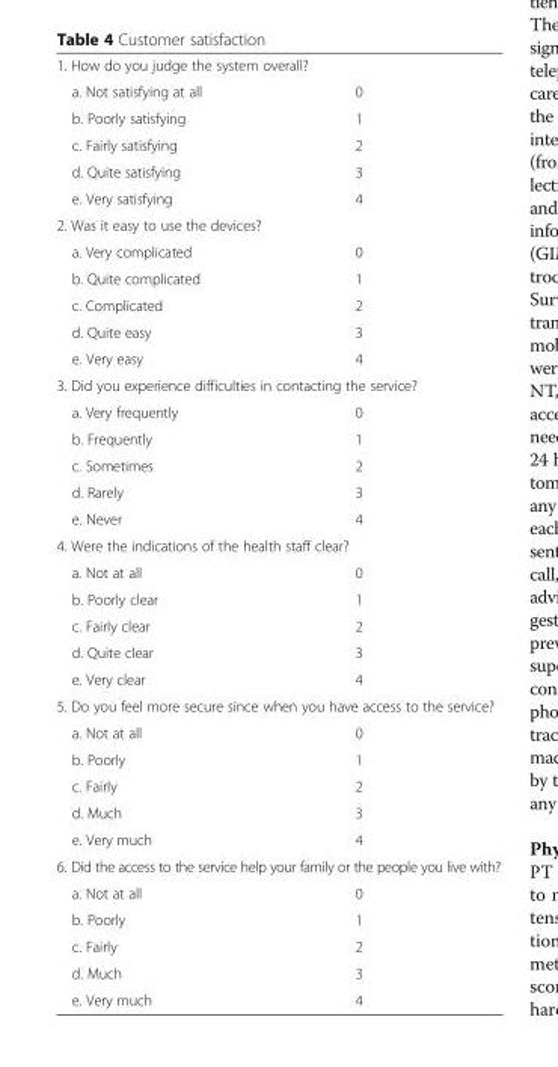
<table><tbody><tr><td colspan="2">1. How do you judge the system overall?</td></tr><tr><td>a. Not satisfying at all</td><td>0</td></tr><tr><td>b. Poorly satisfying</td><td>1</td></tr><tr><td>c. Fairly satisfying</td><td>2</td></tr><tr><td>d. Quite satisfying</td><td>3</td></tr><tr><td>e. Very satisfying</td><td>4</td></tr><tr><td colspan="2">2. Was it easy to use the devices?</td></tr><tr><td>a. Very complicated</td><td>0</td></tr><tr><td>b. Quite complicated</td><td>1</td></tr><tr><td>c. Complicated</td><td>2</td></tr><tr><td>d. Quite easy</td><td>3</td></tr><tr><td>e. Very easy</td><td>4</td></tr><tr><td colspan="2">3. Did you experience difficulties in contacting the service?</td></tr><tr><td>a. Very frequently</td><td>0</td></tr><tr><td>b. Frequently</td><td>1</td></tr><tr><td>c. Sometimes</td><td>2</td></tr><tr><td>d. Rarely</td><td>3</td></tr><tr><td>e. Never</td><td>4</td></tr><tr><td colspan="2">4. Were the indications of the health staff clear?</td></tr><tr><td>a. Not at all</td><td>0</td></tr><tr><td>b. Poorly clear</td><td>1</td></tr><tr><td>c. Fairly clear</td><td>2</td></tr><tr><td>d. Quite clear</td><td>3</td></tr><tr><td>e. Very clear</td><td>4</td></tr><tr><td colspan="2">5. Do you feel more secure since when you have access to the service?</td></tr><tr><td>a. Not at all</td><td>0</td></tr><tr><td>b. Poorly</td><td>1</td></tr><tr><td>c. Fairly</td><td>2</td></tr><tr><td>d. Much</td><td>3</td></tr><tr><td>e. Very much</td><td>4</td></tr><tr><td colspan="2">6. Did the access to the service help your family or the people you live with?</td></tr><tr><td>a. Not at all</td><td>0</td></tr><tr><td>b. Poorly</td><td>1</td></tr><tr><td>c. Fairly</td><td>2</td></tr><tr><td>d. Much</td><td>3</td></tr><tr><td>e. Very much</td><td>4</td></tr></tbody></table>